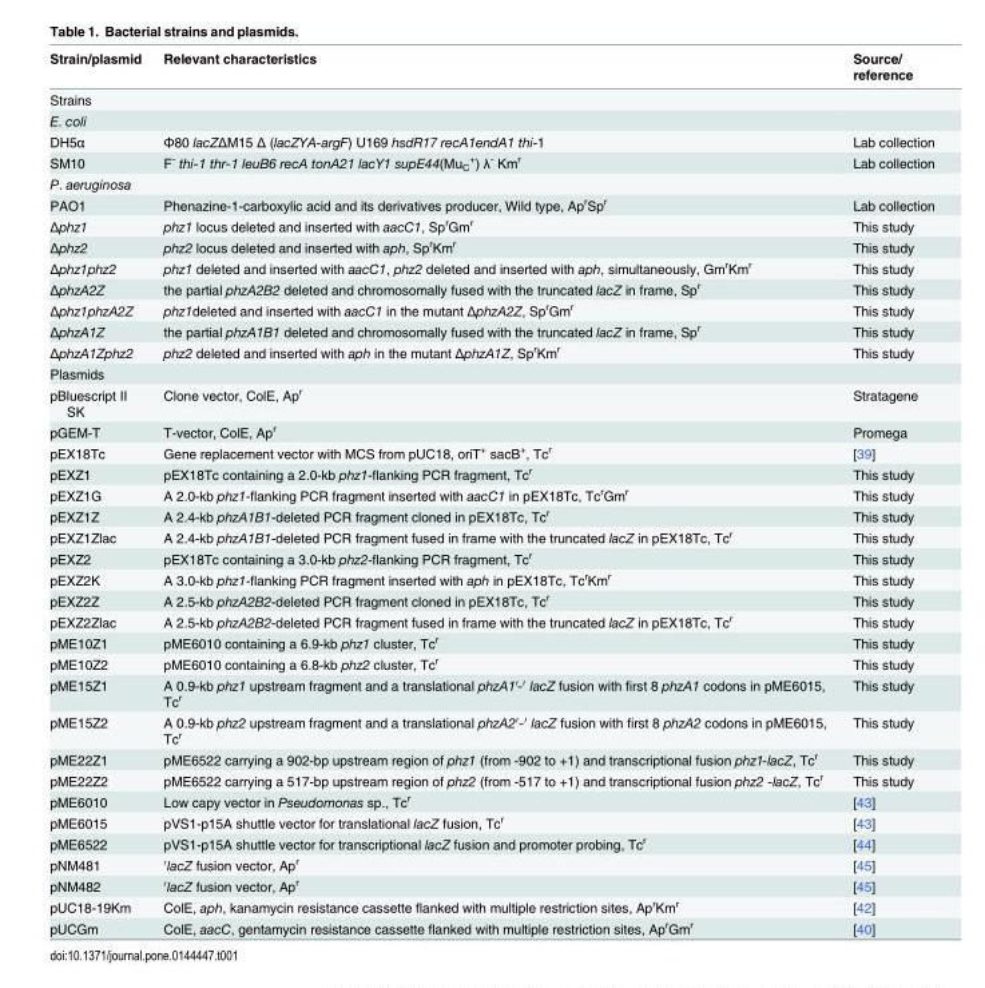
<table><thead><tr><td>Strain/plasmid</td><td>Relevant characteristics</td><td>Source/ reference</td></tr></thead><tbody><tr><td colspan="3">Strains</td></tr><tr><td colspan="3">E. coli</td></tr><tr><td>DH5α</td><td>Φ80 lacZΔM15 Δ (lacZYA-argF) U169 hsdR17 recA1endA1 thi-1</td><td>Lab collection</td></tr><tr><td>SM10</td><td>F<sup>-</sup> thi-1 thr-1 leuB6 recA tonA21 lacY1 supE44(Mu<sub>C</sub> <sup>+</sup>) λ<sup>-</sup> Km<sup>r</sup></td><td>Lab collection</td></tr><tr><td colspan="3">P. aeruginosa</td></tr><tr><td>PAO1</td><td>Phenazine-1-carboxylic acid and its derivatives producer, Wild type, Ap<sup>r</sup>Sp<sup>r</sup></td><td>Lab collection</td></tr><tr><td>Δphz1</td><td>phz1 locus deleted and inserted with aacC1, Sp<sup>r</sup>Gm<sup>r</sup></td><td>This study</td></tr><tr><td>Δphz2</td><td>phz2 locus deleted and inserted with aph, Sp<sup>r</sup>Km<sup>r</sup></td><td>This study</td></tr><tr><td>Δphz1phz2</td><td>phz1 deleted and inserted with aacC1, phz2 deleted and inserted with aph, simultaneously, Gm<sup>r</sup>Km<sup>r</sup></td><td>This study</td></tr><tr><td>ΔphzA2Z</td><td>the partial phzA2B2 deleted and chromosomally fused with the truncated lacZ in frame, Sp<sup>r</sup></td><td>This study</td></tr><tr><td>Δphz1phzA2Z</td><td>phz1deleted and inserted with aacC1 in the mutant ΔphzA2Z, Sp<sup>r</sup>Gm<sup>r</sup></td><td>This study</td></tr><tr><td>ΔphzA1Z</td><td>the partial phzA1B1 deleted and chromosomally fused with the truncated lacZ in frame, Sp<sup>r</sup></td><td>This study</td></tr><tr><td>ΔphzA1Zphz2</td><td>phz2 deleted and inserted with aph in the mutant ΔphzA1Z, Sp<sup>r</sup>Km<sup>r</sup></td><td>This study</td></tr><tr><td colspan="3">Plasmids</td></tr><tr><td>pBluescript II SK</td><td>Clone vector, ColE, Ap<sup>r</sup></td><td>Stratagene</td></tr><tr><td>pGEM-T</td><td>T-vector, ColE, Ap<sup>r</sup></td><td>Promega</td></tr><tr><td>pEX18Tc</td><td>Gene replacement vector with MCS from pUC18, oriT<sup>+</sup> sacB<sup>+</sup>, Tc<sup>r</sup></td><td>[39]</td></tr><tr><td>pEXZ1</td><td>pEX18Tc containing a 2.0-kb phz1-flanking PCR fragment, Tc<sup>r</sup></td><td>This study</td></tr><tr><td>pEXZ1G</td><td>A 2.0-kb phz1-flanking PCR fragment inserted with aacC1 in pEX18Tc, Tc<sup>r</sup>Gm<sup>r</sup></td><td>This study</td></tr><tr><td>pEXZ1Z</td><td>A 2.4-kb phzA1B1-deleted PCR fragment cloned in pEX18Tc, Tc<sup>r</sup></td><td>This study</td></tr><tr><td>pEXZ1Zlac</td><td>A 2.4-kb phzA1B1-deleted PCR fragment fused in frame with the truncated lacZ in pEX18Tc, Tc<sup>r</sup></td><td>This study</td></tr><tr><td>pEXZ2</td><td>pEX18Tc containing a 3.0-kb phz2-flanking PCR fragment, Tc<sup>r</sup></td><td>This study</td></tr><tr><td>pEXZ2K</td><td>A 3.0-kb phz1-flanking PCR fragment inserted with aph in pEX18Tc, Tc<sup>r</sup>Km<sup>r</sup></td><td>This study</td></tr><tr><td>pEXZ2Z</td><td>A 2.5-kb phzA2B2-deleted PCR fragment cloned in pEX18Tc, Tc<sup>r</sup></td><td>This study</td></tr><tr><td>pEXZ2Zlac</td><td>A 2.5-kb phzA2B2-deleted PCR fragment fused in frame with the truncated lacZ in pEX18Tc, Tc<sup>r</sup></td><td>This study</td></tr><tr><td>pME10Z1</td><td>pME6010 containing a 6.9-kb phz1 cluster, Tc<sup>r</sup></td><td>This study</td></tr><tr><td>pME10Z2</td><td>pME6010 containing a 6.8-kb phz2 cluster, Tc<sup>r</sup></td><td>This study</td></tr><tr><td>pME15Z1</td><td>A 0.9-kb phz1 upstream fragment and a translational phzA1′-′ lacZ fusion with first 8 phzA1 codons in pME6015, Tc<sup>r</sup></td><td>This study</td></tr><tr><td>pME15Z2</td><td>A 0.9-kb phz2 upstream fragment and a translational phzA2′-′ lacZ fusion with first 8 phzA2 codons in pME6015, Tc<sup>r</sup></td><td>This study</td></tr><tr><td>pME22Z1</td><td>pME6522 carrying a 902-bp upstream region of phz1 (from -902 to +1) and transcriptional fusion phz1-lacZ, Tc<sup>r</sup></td><td>This study</td></tr><tr><td>pME22Z2</td><td>pME6522 carrying a 517-bp upstream region of phz2 (from -517 to +1) and transcriptional fusion phz2 -lacZ, Tc<sup>r</sup></td><td>This study</td></tr><tr><td>pME6010</td><td>Low capy vector in Pseudomonas sp., Tc<sup>r</sup></td><td>[43]</td></tr><tr><td>pME6015</td><td>pVS1-p15A shuttle vector for translational lacZ fusion, Tc<sup>r</sup></td><td>[43]</td></tr><tr><td>pME6522</td><td>pVS1-p15A shuttle vector for transcriptional lacZ fusion and promoter probing, Tc<sup>r</sup></td><td>[44]</td></tr><tr><td>pNM481</td><td>′lacZ fusion vector, Ap<sup>r</sup></td><td>[45]</td></tr><tr><td>pNM482</td><td>′lacZ fusion vector, Ap<sup>r</sup></td><td>[45]</td></tr><tr><td>pUC18-19Km</td><td>ColE, aph, kanamycin resistance cassette flanked with multiple restriction sites, Ap<sup>r</sup>Km<sup>r</sup></td><td>[42]</td></tr><tr><td>pUCGm</td><td>ColE, aacC, gentamycin resistance cassette flanked with multiple restriction sites, Ap<sup>r</sup>Gm<sup>r</sup></td><td>[40]</td></tr></tbody></table>